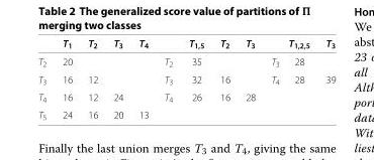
<table><thead><tr><td></td><td>T<sub>1</sub></td><td>T<sub>2</sub></td><td>T<sub>3</sub></td><td>T<sub>4</sub></td><td></td><td>T<sub>1,5</sub></td><td>T<sub>2</sub></td><td>T<sub>3</sub></td><td></td><td>T<sub>1,2,5</sub></td><td>T<sub>3</sub></td></tr></thead><tbody><tr><td>T<sub>2</sub></td><td>20</td><td></td><td></td><td></td><td>T<sub>2</sub></td><td>35</td><td></td><td></td><td>T<sub>3</sub></td><td>28</td><td></td></tr><tr><td>T<sub>3</sub></td><td>16</td><td>12</td><td></td><td></td><td>T<sub>3</sub></td><td>32</td><td>16</td><td></td><td>T<sub>4</sub></td><td>28</td><td>39</td></tr><tr><td>T<sub>4</sub></td><td>16</td><td>12</td><td>24</td><td></td><td>T<sub>4</sub></td><td>26</td><td>16</td><td>28</td><td></td><td></td><td></td></tr><tr><td>T<sub>5</sub></td><td>24</td><td>16</td><td>20</td><td>13</td><td></td><td></td><td></td><td></td><td></td><td></td><td></td></tr></tbody></table>